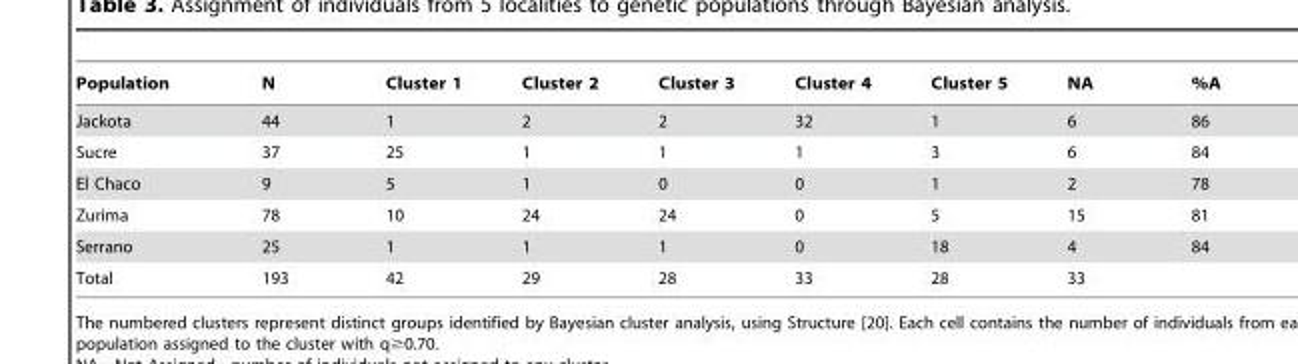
<table><thead><tr><td>Population</td><td>N</td><td>Cluster 1</td><td>Cluster 2</td><td>Cluster 3</td><td>Cluster 4</td><td>Cluster 5</td><td>NA</td><td>%A</td></tr></thead><tbody><tr><td>Jackota</td><td>44</td><td>1</td><td>2</td><td>2</td><td>32</td><td>1</td><td>6</td><td>86</td></tr><tr><td>Sucre</td><td>37</td><td>25</td><td>1</td><td>1</td><td>1</td><td>3</td><td>6</td><td>84</td></tr><tr><td>El Chaco</td><td>9</td><td>5</td><td>1</td><td>0</td><td>0</td><td>1</td><td>2</td><td>78</td></tr><tr><td>Zurima</td><td>78</td><td>10</td><td>24</td><td>24</td><td>0</td><td>5</td><td>15</td><td>81</td></tr><tr><td>Serrano</td><td>25</td><td>1</td><td>1</td><td>1</td><td>0</td><td>18</td><td>4</td><td>84</td></tr><tr><td>Total</td><td>193</td><td>42</td><td>29</td><td>28</td><td>33</td><td>28</td><td>33</td><td></td></tr></tbody></table>